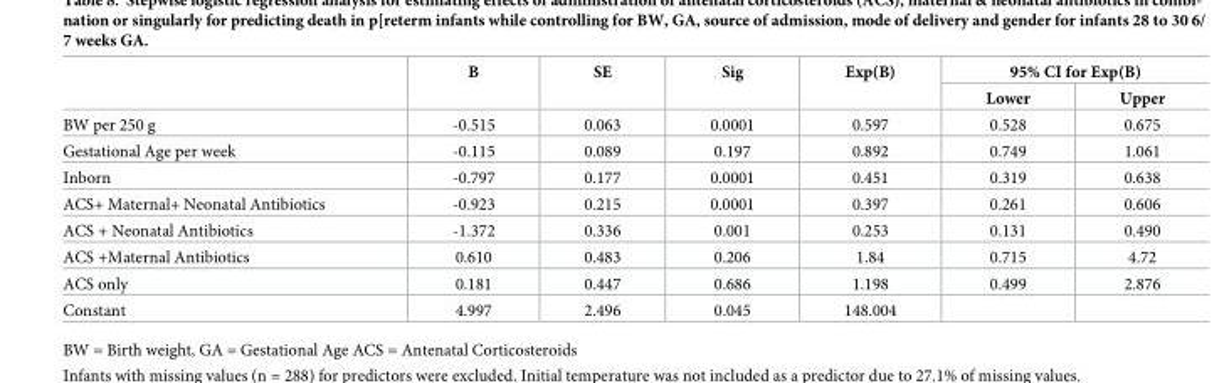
<table><thead><tr><td rowspan="2"></td><td rowspan="2">B</td><td rowspan="2">SE</td><td rowspan="2">Sig</td><td rowspan="2">Exp(B)</td><td colspan="2">95% CI for Exp(B)</td></tr><tr><td>Lower</td><td>Upper</td></tr></thead><tbody><tr><td>BW per 250 g</td><td>-0.515</td><td>0.063</td><td>0.0001</td><td>0.597</td><td>0.528</td><td>0.675</td></tr><tr><td>Gestational Age per week</td><td>-0.115</td><td>0.089</td><td>0.197</td><td>0.892</td><td>0.749</td><td>1.061</td></tr><tr><td>Inborn</td><td>-0.797</td><td>0.177</td><td>0.0001</td><td>0.451</td><td>0.319</td><td>0.638</td></tr><tr><td>ACS+ Maternal+ Neonatal Antibiotics</td><td>-0.923</td><td>0.215</td><td>0.0001</td><td>0.397</td><td>0.261</td><td>0.606</td></tr><tr><td>ACS + Neonatal Antibiotics</td><td>-1.372</td><td>0.336</td><td>0.001</td><td>0.253</td><td>0.131</td><td>0.490</td></tr><tr><td>ACS +Maternal Antibiotics</td><td>0.610</td><td>0.483</td><td>0.206</td><td>1.84</td><td>0.715</td><td>4.72</td></tr><tr><td>ACS only</td><td>0.181</td><td>0.447</td><td>0.686</td><td>1.198</td><td>0.499</td><td>2.876</td></tr><tr><td>Constant</td><td>4.997</td><td>2.496</td><td>0.045</td><td>148.004</td><td></td><td></td></tr></tbody></table>